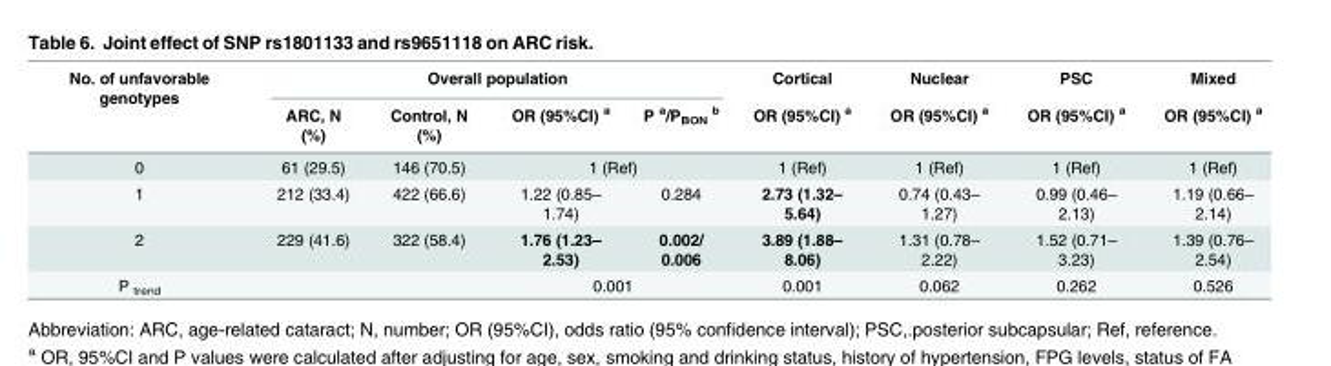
<table><thead><tr><td rowspan="2">No. of unfavorable genotypes</td><td colspan="4">Overall population</td><td rowspan="2">Cortical OR (95%CI) <sup>a</sup></td><td rowspan="2">Nuclear OR (95%CI) <sup>a</sup></td><td rowspan="2">PSC OR (95%CI) <sup>a</sup></td><td rowspan="2">Mixed OR (95%CI) <sup>a</sup></td></tr><tr><td>ARC, N (%)</td><td>Control, N (%)</td><td>OR (95%CI) <sup>a</sup></td><td>P <sup>a</sup>/P<sub>BON</sub> <sup>b</sup></td></tr></thead><tbody><tr><td>0</td><td>61 (29.5)</td><td>146 (70.5)</td><td colspan="2">1 (Ref)</td><td>1 (Ref)</td><td>1 (Ref)</td><td>1 (Ref)</td><td>1 (Ref)</td></tr><tr><td>1</td><td>212 (33.4)</td><td>422 (66.6)</td><td>1.22 (0.85– 1.74)</td><td>0.284</td><td>2.73 (1.32– 5.64)</td><td>0.74 (0.43– 1.27)</td><td>0.99 (0.46– 2.13)</td><td>1.19 (0.66– 2.14)</td></tr><tr><td>2</td><td>229 (41.6)</td><td>322 (58.4)</td><td>1.76 (1.23– 2.53)</td><td>0.002/ 0.006</td><td>3.89 (1.88– 8.06)</td><td>1.31 (0.78– 2.22)</td><td>1.52 (0.71– 3.23)</td><td>1.39 (0.76– 2.54)</td></tr><tr><td>P <sub>trend</sub></td><td></td><td></td><td colspan="2">0.001</td><td>0.001</td><td>0.062</td><td>0.262</td><td>0.526</td></tr></tbody></table>